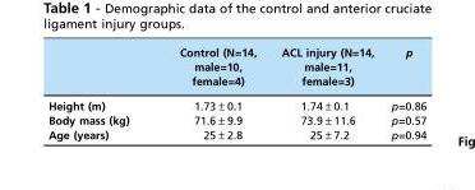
<table><thead><tr><td></td><td>Control (N=14, male=10, female=4)</td><td>ACL injury (N=14, male=11, female=3)</td><td>p</td></tr></thead><tbody><tr><td>Height (m)</td><td>1.73±0.1</td><td>1.74±0.1</td><td>p=0.86</td></tr><tr><td>Body mass (kg)</td><td>71.6±9.9</td><td>73.9±11.6</td><td>p=0.57</td></tr><tr><td>Age (years)</td><td>25±2.8</td><td>25±7.2</td><td>p=0.94</td></tr></tbody></table>